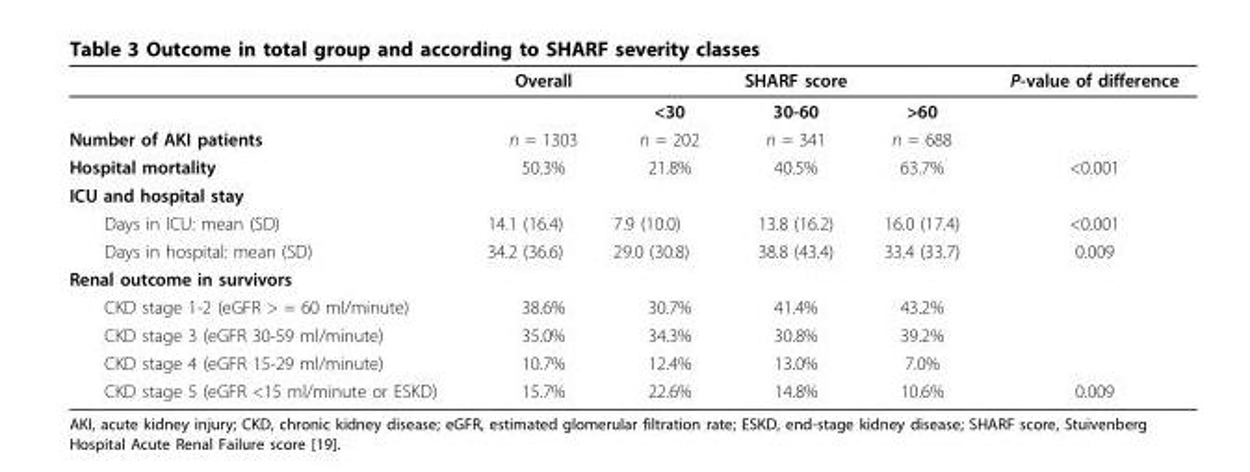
<table><thead><tr><td rowspan="2"></td><td rowspan="2">Overall</td><td colspan="3">SHARF score</td><td rowspan="2">P-value of difference</td></tr><tr><td>&lt;30</td><td>30-60</td><td>&gt;60</td></tr></thead><tbody><tr><td>Number of AKI patients</td><td>n = 1303</td><td>n = 202</td><td>n = 341</td><td>n = 688</td><td></td></tr><tr><td>Hospital mortality</td><td>50.3%</td><td>21.8%</td><td>40.5%</td><td>63.7%</td><td>&lt;0.001</td></tr><tr><td colspan="6">ICU and hospital stay</td></tr><tr><td>Days in ICU: mean (SD)</td><td>14.1 (16.4)</td><td>7.9 (10.0)</td><td>13.8 (16.2)</td><td>16.0 (17.4)</td><td>&lt;0.001</td></tr><tr><td>Days in hospital: mean (SD)</td><td>34.2 (36.6)</td><td>29.0 (30.8)</td><td>38.8 (43.4)</td><td>33.4 (33.7)</td><td>0.009</td></tr><tr><td colspan="6">Renal outcome in survivors</td></tr><tr><td>CKD stage 1-2 (eGFR &gt; = 60 ml/minute)</td><td>38.6%</td><td>30.7%</td><td>41.4%</td><td>43.2%</td><td></td></tr><tr><td>CKD stage 3 (eGFR 30-59 ml/minute)</td><td>35.0%</td><td>34.3%</td><td>30.8%</td><td>39.2%</td><td></td></tr><tr><td>CKD stage 4 (eGFR 15-29 ml/minute)</td><td>10.7%</td><td>12.4%</td><td>13.0%</td><td>7.0%</td><td></td></tr><tr><td>CKD stage 5 (eGFR &lt;15 ml/minute or ESKD)</td><td>15.7%</td><td>22.6%</td><td>14.8%</td><td>10.6%</td><td>0.009</td></tr></tbody></table>